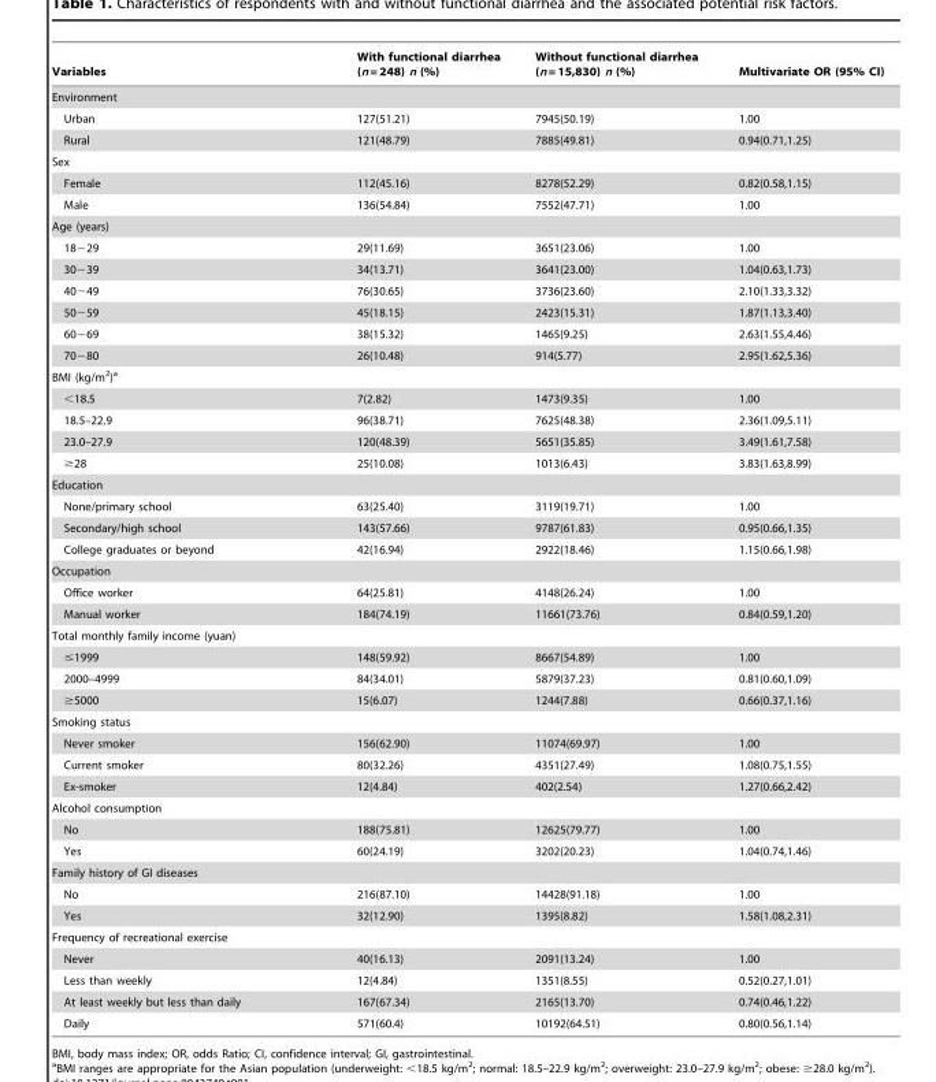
<table><thead><tr><td>Variables</td><td>With functional diarrhea (n = 248) n (%)</td><td>Without functional diarrhea (n = 15,830) n (%)</td><td>Multivariate OR (95% CI)</td></tr></thead><tbody><tr><td colspan="4">Environment</td></tr><tr><td>Urban</td><td>127(51.21)</td><td>7945(50.19)</td><td>1.00</td></tr><tr><td>Rural</td><td>121(48.79)</td><td>7885(49.81)</td><td>0.94(0.71,1.25)</td></tr><tr><td colspan="4">Sex</td></tr><tr><td>Female</td><td>112(45.16)</td><td>8278(52.29)</td><td>0.82(0.58,1.15)</td></tr><tr><td>Male</td><td>136(54.84)</td><td>7552(47.71)</td><td>1.00</td></tr><tr><td colspan="4">Age (years)</td></tr><tr><td>18−29</td><td>29(11.69)</td><td>3651(23.06)</td><td>1.00</td></tr><tr><td>30−39</td><td>34(13.71)</td><td>3641(23.00)</td><td>1.04(0.63,1.73)</td></tr><tr><td>40−49</td><td>76(30.65)</td><td>3736(23.60)</td><td>2.10(1.33,3.32)</td></tr><tr><td>50−59</td><td>45(18.15)</td><td>2423(15.31)</td><td>1.87(1.13,3.40)</td></tr><tr><td>60−69</td><td>38(15.32)</td><td>1465(9.25)</td><td>2.63(1.55,4.46)</td></tr><tr><td>70−80</td><td>26(10.48)</td><td>914(5.77)</td><td>2.95(1.62,5.36)</td></tr><tr><td colspan="4">BMI (kg/m<sup>2</sup>)<sup>a</sup></td></tr><tr><td>&lt;18.5</td><td>7(2.82)</td><td>1473(9.35)</td><td>1.00</td></tr><tr><td>18.5–22.9</td><td>96(38.71)</td><td>7625(48.38)</td><td>2.36(1.09,5.11)</td></tr><tr><td>23.0–27.9</td><td>120(48.39)</td><td>5651(35.85)</td><td>3.49(1.61,7.58)</td></tr><tr><td>≥28</td><td>25(10.08)</td><td>1013(6.43)</td><td>3.83(1.63,8.99)</td></tr><tr><td colspan="4">Education</td></tr><tr><td>None/primary school</td><td>63(25.40)</td><td>3119(19.71)</td><td>1.00</td></tr><tr><td>Secondary/high school</td><td>143(57.66)</td><td>9787(61.83)</td><td>0.95(0.66,1.35)</td></tr><tr><td>College graduates or beyond</td><td>42(16.94)</td><td>2922(18.46)</td><td>1.15(0.66,1.98)</td></tr><tr><td colspan="4">Occupation</td></tr><tr><td>Office worker</td><td>64(25.81)</td><td>4148(26.24)</td><td>1.00</td></tr><tr><td>Manual worker</td><td>184(74.19)</td><td>11661(73.76)</td><td>0.84(0.59,1.20)</td></tr><tr><td colspan="4">Total monthly family income (yuan)</td></tr><tr><td>≤1999</td><td>148(59.92)</td><td>8667(54.89)</td><td>1.00</td></tr><tr><td>2000–4999</td><td>84(34.01)</td><td>5879(37.23)</td><td>0.81(0.60,1.09)</td></tr><tr><td>≥5000</td><td>15(6.07)</td><td>1244(7.88)</td><td>0.66(0.37,1.16)</td></tr><tr><td colspan="4">Smoking status</td></tr><tr><td>Never smoker</td><td>156(62.90)</td><td>11074(69.97)</td><td>1.00</td></tr><tr><td>Current smoker</td><td>80(32.26)</td><td>4351(27.49)</td><td>1.08(0.75,1.55)</td></tr><tr><td>Ex-smoker</td><td>12(4.84)</td><td>402(2.54)</td><td>1.27(0.66,2.42)</td></tr><tr><td colspan="4">Alcohol consumption</td></tr><tr><td>No</td><td>188(75.81)</td><td>12625(79.77)</td><td>1.00</td></tr><tr><td>Yes</td><td>60(24.19)</td><td>3202(20.23)</td><td>1.04(0.74,1.46)</td></tr><tr><td colspan="4">Family history of GI diseases</td></tr><tr><td>No</td><td>216(87.10)</td><td>14428(91.18)</td><td>1.00</td></tr><tr><td>Yes</td><td>32(12.90)</td><td>1395(8.82)</td><td>1.58(1.08,2.31)</td></tr><tr><td colspan="4">Frequency of recreational exercise</td></tr><tr><td>Never</td><td>40(16.13)</td><td>2091(13.24)</td><td>1.00</td></tr><tr><td>Less than weekly</td><td>12(4.84)</td><td>1351(8.55)</td><td>0.52(0.27,1.01)</td></tr><tr><td>At least weekly but less than daily</td><td>167(67.34)</td><td>2165(13.70)</td><td>0.74(0.46,1.22)</td></tr><tr><td>Daily</td><td>571(60.4)</td><td>10192(64.51)</td><td>0.80(0.56,1.14)</td></tr></tbody></table>